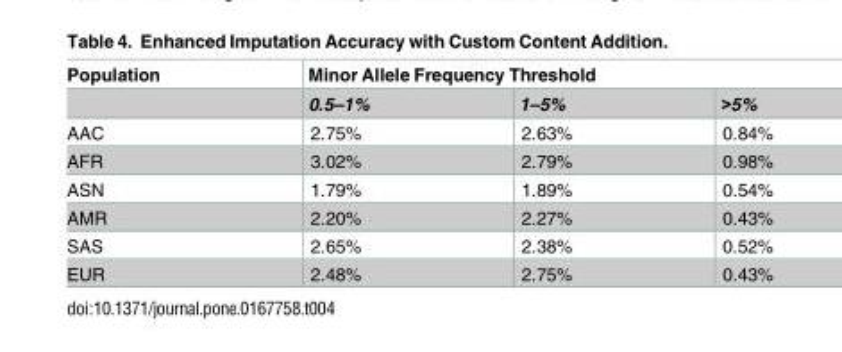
<table><thead><tr><td rowspan="2">Population</td><td colspan="3">Minor Allele Frequency Threshold</td></tr><tr><td>0.5–1%</td><td>1–5%</td><td>&gt;5%</td></tr></thead><tbody><tr><td>AAC</td><td>2.75%</td><td>2.63%</td><td>0.84%</td></tr><tr><td>AFR</td><td>3.02%</td><td>2.79%</td><td>0.98%</td></tr><tr><td>ASN</td><td>1.79%</td><td>1.89%</td><td>0.54%</td></tr><tr><td>AMR</td><td>2.20%</td><td>2.27%</td><td>0.43%</td></tr><tr><td>SAS</td><td>2.65%</td><td>2.38%</td><td>0.52%</td></tr><tr><td>EUR</td><td>2.48%</td><td>2.75%</td><td>0.43%</td></tr></tbody></table>